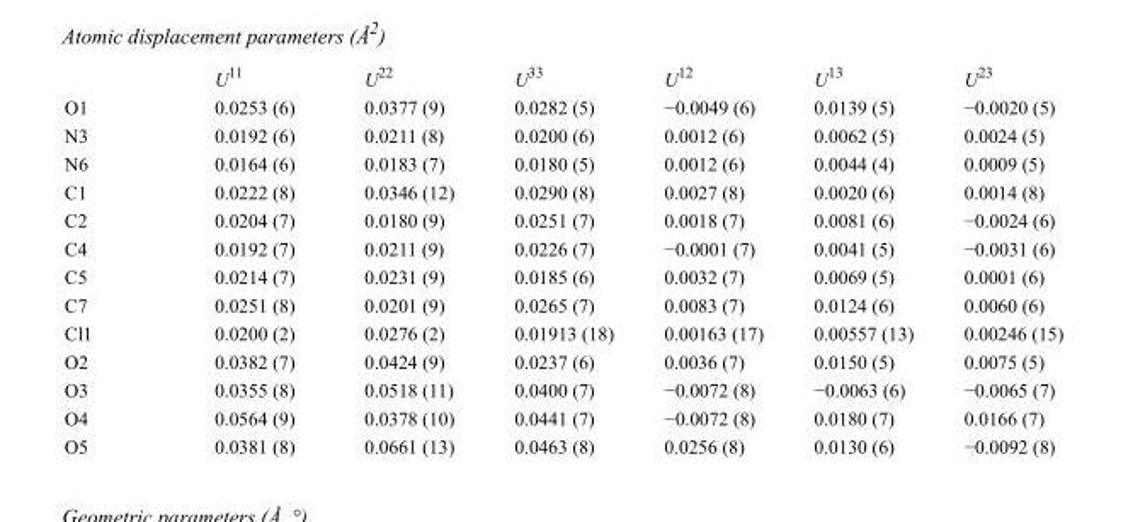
<table><thead><tr><td></td><td>U<sup>11</sup></td><td>U<sup>22</sup></td><td>U<sup>33</sup></td><td>U<sup>12</sup></td><td>U<sup>13</sup></td><td>U<sup>23</sup></td></tr></thead><tbody><tr><td>O1</td><td>0.0253 (6)</td><td>0.0377 (9)</td><td>0.0282 (5)</td><td>−0.0049 (6)</td><td>0.0139 (5)</td><td>−0.0020 (5)</td></tr><tr><td>N3</td><td>0.0192 (6)</td><td>0.0211 (8)</td><td>0.0200 (6)</td><td>0.0012 (6)</td><td>0.0062 (5)</td><td>0.0024 (5)</td></tr><tr><td>N6</td><td>0.0164 (6)</td><td>0.0183 (7)</td><td>0.0180 (5)</td><td>0.0012 (6)</td><td>0.0044 (4)</td><td>0.0009 (5)</td></tr><tr><td>C1</td><td>0.0222 (8)</td><td>0.0346 (12)</td><td>0.0290 (8)</td><td>0.0027 (8)</td><td>0.0020 (6)</td><td>0.0014 (8)</td></tr><tr><td>C2</td><td>0.0204 (7)</td><td>0.0180 (9)</td><td>0.0251 (7)</td><td>0.0018 (7)</td><td>0.0081 (6)</td><td>−0.0024 (6)</td></tr><tr><td>C4</td><td>0.0192 (7)</td><td>0.0211 (9)</td><td>0.0226 (7)</td><td>−0.0001 (7)</td><td>0.0041 (5)</td><td>−0.0031 (6)</td></tr><tr><td>C5</td><td>0.0214 (7)</td><td>0.0231 (9)</td><td>0.0185 (6)</td><td>0.0032 (7)</td><td>0.0069 (5)</td><td>0.0001 (6)</td></tr><tr><td>C7</td><td>0.0251 (8)</td><td>0.0201 (9)</td><td>0.0265 (7)</td><td>0.0083 (7)</td><td>0.0124 (6)</td><td>0.0060 (6)</td></tr><tr><td>Cl1</td><td>0.0200 (2)</td><td>0.0276 (2)</td><td>0.01913 (18)</td><td>0.00163 (17)</td><td>0.00557 (13)</td><td>0.00246 (15)</td></tr><tr><td>O2</td><td>0.0382 (7)</td><td>0.0424 (9)</td><td>0.0237 (6)</td><td>0.0036 (7)</td><td>0.0150 (5)</td><td>0.0075 (5)</td></tr><tr><td>O3</td><td>0.0355 (8)</td><td>0.0518 (11)</td><td>0.0400 (7)</td><td>−0.0072 (8)</td><td>−0.0063 (6)</td><td>−0.0065 (7)</td></tr><tr><td>O4</td><td>0.0564 (9)</td><td>0.0378 (10)</td><td>0.0441 (7)</td><td>−0.0072 (8)</td><td>0.0180 (7)</td><td>0.0166 (7)</td></tr><tr><td>O5</td><td>0.0381 (8)</td><td>0.0661 (13)</td><td>0.0463 (8)</td><td>0.0256 (8)</td><td>0.0130 (6)</td><td>−0.0092 (8)</td></tr></tbody></table>